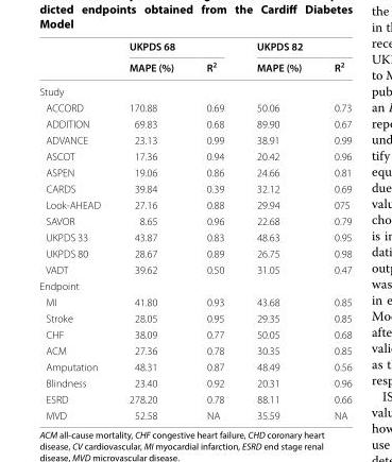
<table><thead><tr><td rowspan="2"></td><td colspan="2">UKPDS 68</td><td colspan="2">UKPDS 82</td></tr><tr><td>MAPE (%)</td><td>R<sup>2</sup></td><td>MAPE (%)</td><td>R<sup>2</sup></td></tr></thead><tbody><tr><td colspan="5">Study</td></tr><tr><td>ACCORD</td><td>170.88</td><td>0.69</td><td>50.06</td><td>0.73</td></tr><tr><td>ADDITION</td><td>69.83</td><td>0.68</td><td>89.90</td><td>0.67</td></tr><tr><td>ADVANCE</td><td>23.13</td><td>0.99</td><td>38.91</td><td>0.99</td></tr><tr><td>ASCOT</td><td>17.36</td><td>0.94</td><td>20.42</td><td>0.96</td></tr><tr><td>ASPEN</td><td>19.06</td><td>0.86</td><td>24.66</td><td>0.81</td></tr><tr><td>CARDS</td><td>39.84</td><td>0.39</td><td>32.12</td><td>0.69</td></tr><tr><td>Look-AHEAD</td><td>27.16</td><td>0.88</td><td>29.94</td><td>075</td></tr><tr><td>SAVOR</td><td>8.65</td><td>0.96</td><td>22.68</td><td>0.79</td></tr><tr><td>UKPDS 33</td><td>43.87</td><td>0.83</td><td>48.63</td><td>0.95</td></tr><tr><td>UKPDS 80</td><td>28.67</td><td>0.89</td><td>26.75</td><td>0.98</td></tr><tr><td>VADT</td><td>39.62</td><td>0.50</td><td>31.05</td><td>0.47</td></tr><tr><td colspan="5">Endpoint</td></tr><tr><td>MI</td><td>41.80</td><td>0.93</td><td>43.68</td><td>0.85</td></tr><tr><td>Stroke</td><td>28.05</td><td>0.95</td><td>29.35</td><td>0.85</td></tr><tr><td>CHF</td><td>38.09</td><td>0.77</td><td>50.05</td><td>0.68</td></tr><tr><td>ACM</td><td>27.36</td><td>0.78</td><td>30.35</td><td>0.85</td></tr><tr><td>Amputation</td><td>48.31</td><td>0.87</td><td>48.49</td><td>0.56</td></tr><tr><td>Blindness</td><td>23.40</td><td>0.92</td><td>20.31</td><td>0.96</td></tr><tr><td>ESRD</td><td>278.20</td><td>0.78</td><td>88.11</td><td>0.66</td></tr><tr><td>MVD</td><td>52.58</td><td>NA</td><td>35.59</td><td>NA</td></tr></tbody></table>